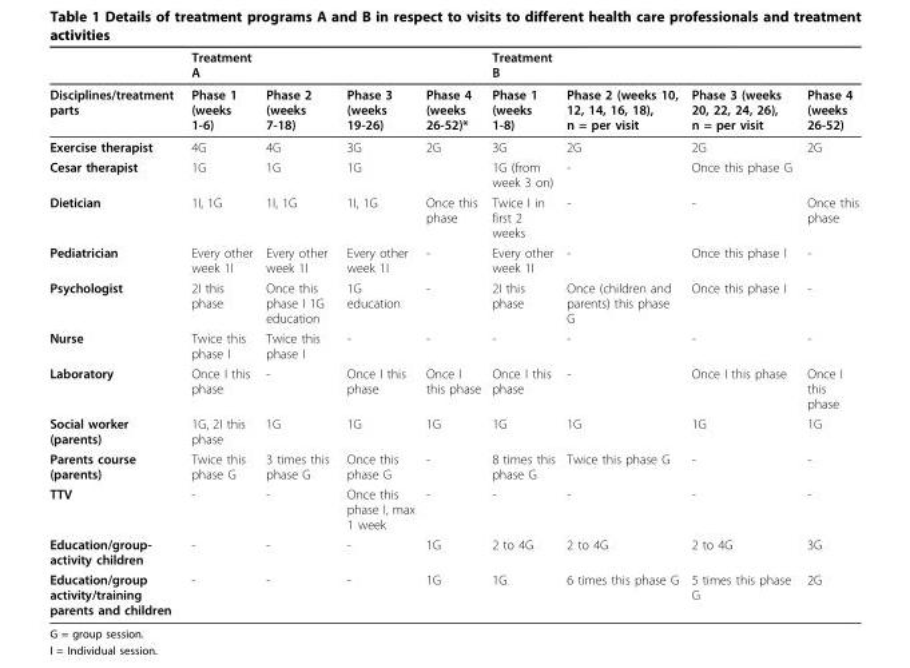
<table><thead><tr><td></td><td>Treatment A</td><td></td><td></td><td></td><td>Treatment B</td><td></td><td></td><td></td></tr></thead><tbody><tr><td>Disciplines/treatment parts</td><td>Phase 1 (weeks 1-6)</td><td>Phase 2 (weeks 7-18)</td><td>Phase 3 (weeks 19-26)</td><td>Phase 4 (weeks 26-52)*</td><td>Phase 1 (weeks 1-8)</td><td>Phase 2 (weeks 10, 12, 14, 16, 18), n = per visit</td><td>Phase 3 (weeks 20, 22, 24, 26), n = per visit</td><td>Phase 4 (weeks 26-52)</td></tr><tr><td>Exercise therapist</td><td>4G</td><td>4G</td><td>3G</td><td>2G</td><td>3G</td><td>2G</td><td>2G</td><td>2G</td></tr><tr><td>Cesar therapist</td><td>1G</td><td>1G</td><td>1G</td><td></td><td>1G (from week 3 on)</td><td>-</td><td>Once this phase G</td><td></td></tr><tr><td>Dietician</td><td>1I, 1G</td><td>1I, 1G</td><td>1I, 1G</td><td>Once this phase</td><td>Twice I in first 2 weeks</td><td>-</td><td>-</td><td>Once this phase</td></tr><tr><td>Pediatrician</td><td>Every other week 1I</td><td>Every other week 1I</td><td>Every other week 1I</td><td>-</td><td>Every other week 1I</td><td>-</td><td>Once this phase I</td><td>-</td></tr><tr><td>Psychologist</td><td>2I this phase</td><td>Once this phase I 1G education</td><td>1G education</td><td>-</td><td>2I this phase</td><td>Once (children and parents) this phase G</td><td>Once this phase I</td><td>-</td></tr><tr><td>Nurse</td><td>Twice this phase I</td><td>Twice this phase I</td><td>-</td><td>-</td><td>-</td><td>-</td><td>-</td><td>-</td></tr><tr><td>Laboratory</td><td>Once I this phase</td><td>-</td><td>Once I this phase</td><td>Once I this phase</td><td>Once I this phase</td><td>-</td><td>Once I this phase</td><td>Once I this phase</td></tr><tr><td>Social worker (parents)</td><td>1G, 2I this phase</td><td>1G</td><td>1G</td><td>1G</td><td>1G</td><td>1G</td><td>1G</td><td>1G</td></tr><tr><td>Parents course (parents)</td><td>Twice this phase G</td><td>3 times this phase G</td><td>Once this phase G</td><td>-</td><td>8 times this phase G</td><td>Twice this phase G</td><td>-</td><td>-</td></tr><tr><td>TTV</td><td>-</td><td>-</td><td>Once this phase I, max 1 week</td><td>-</td><td>-</td><td>-</td><td>-</td><td>-</td></tr><tr><td>Education/group- activity children</td><td>-</td><td>-</td><td>-</td><td>1G</td><td>2 to 4G</td><td>2 to 4G</td><td>2 to 4G</td><td>3G</td></tr><tr><td>Education/group activity/training parents and children</td><td>-</td><td>-</td><td>-</td><td>1G</td><td>1G</td><td>6 times this phase G</td><td>5 times this phase G</td><td>2G</td></tr></tbody></table>